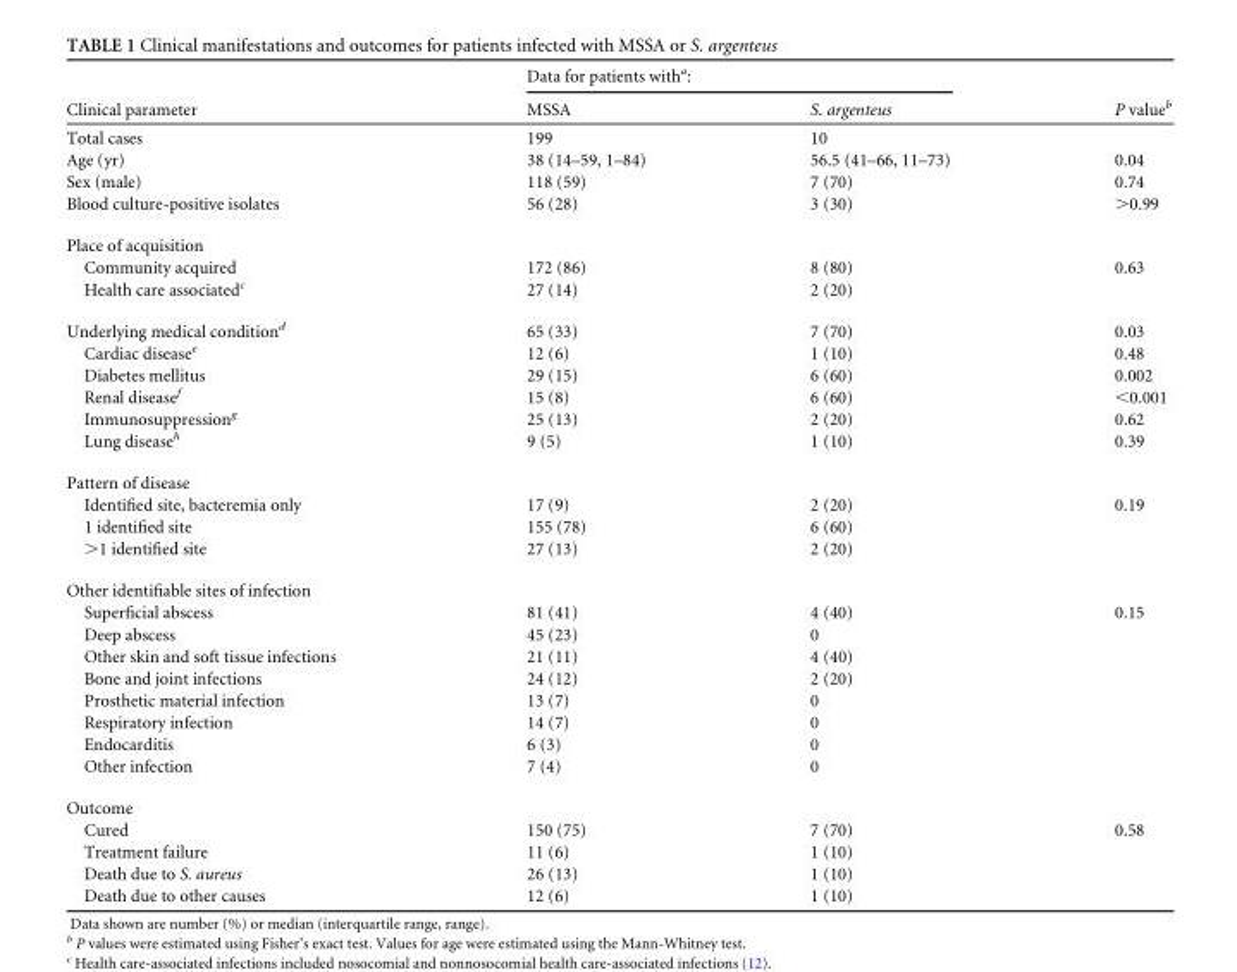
<table><thead><tr><td rowspan="2">Clinical parameter</td><td colspan="2">Data for patients with<sup>a</sup>:</td><td rowspan="2">P value<sup>b</sup></td></tr><tr><td>MSSA</td><td>S. argenteus</td></tr></thead><tbody><tr><td>Total cases</td><td>199</td><td>10</td><td></td></tr><tr><td>Age (yr)</td><td>38 (14–59, 1–84)</td><td>56.5 (41–66, 11–73)</td><td>0.04</td></tr><tr><td>Sex (male)</td><td>118 (59)</td><td>7 (70)</td><td>0.74</td></tr><tr><td>Blood culture-positive isolates</td><td>56 (28)</td><td>3 (30)</td><td>&gt;0.99</td></tr><tr><td colspan="4">Place of acquisition</td></tr><tr><td>Community acquired</td><td>172 (86)</td><td>8 (80)</td><td>0.63</td></tr><tr><td>Health care associated<sup>c</sup></td><td>27 (14)</td><td>2 (20)</td><td></td></tr><tr><td>Underlying medical condition<sup>d</sup></td><td>65 (33)</td><td>7 (70)</td><td>0.03</td></tr><tr><td>Cardiac disease<sup>e</sup></td><td>12 (6)</td><td>1 (10)</td><td>0.48</td></tr><tr><td>Diabetes mellitus</td><td>29 (15)</td><td>6 (60)</td><td>0.002</td></tr><tr><td>Renal disease<sup>f</sup></td><td>15 (8)</td><td>6 (60)</td><td>&lt;0.001</td></tr><tr><td>Immunosuppression<sup>g</sup></td><td>25 (13)</td><td>2 (20)</td><td>0.62</td></tr><tr><td>Lung disease<sup>h</sup></td><td>9 (5)</td><td>1 (10)</td><td>0.39</td></tr><tr><td colspan="4">Pattern of disease</td></tr><tr><td>Identified site, bacteremia only</td><td>17 (9)</td><td>2 (20)</td><td>0.19</td></tr><tr><td>1 identified site</td><td>155 (78)</td><td>6 (60)</td><td></td></tr><tr><td>&gt;1 identified site</td><td>27 (13)</td><td>2 (20)</td><td></td></tr><tr><td colspan="4">Other identifiable sites of infection</td></tr><tr><td>Superficial abscess</td><td>81 (41)</td><td>4 (40)</td><td>0.15</td></tr><tr><td>Deep abscess</td><td>45 (23)</td><td>0</td><td></td></tr><tr><td>Other skin and soft tissue infections</td><td>21 (11)</td><td>4 (40)</td><td></td></tr><tr><td>Bone and joint infections</td><td>24 (12)</td><td>2 (20)</td><td></td></tr><tr><td>Prosthetic material infection</td><td>13 (7)</td><td>0</td><td></td></tr><tr><td>Respiratory infection</td><td>14 (7)</td><td>0</td><td></td></tr><tr><td>Endocarditis</td><td>6 (3)</td><td>0</td><td></td></tr><tr><td>Other infection</td><td>7 (4)</td><td>0</td><td></td></tr><tr><td colspan="4">Outcome</td></tr><tr><td>Cured</td><td>150 (75)</td><td>7 (70)</td><td>0.58</td></tr><tr><td>Treatment failure</td><td>11 (6)</td><td>1 (10)</td><td></td></tr><tr><td>Death due to S. aureus</td><td>26 (13)</td><td>1 (10)</td><td></td></tr><tr><td>Death due to other causes</td><td>12 (6)</td><td>1 (10)</td><td></td></tr></tbody></table>